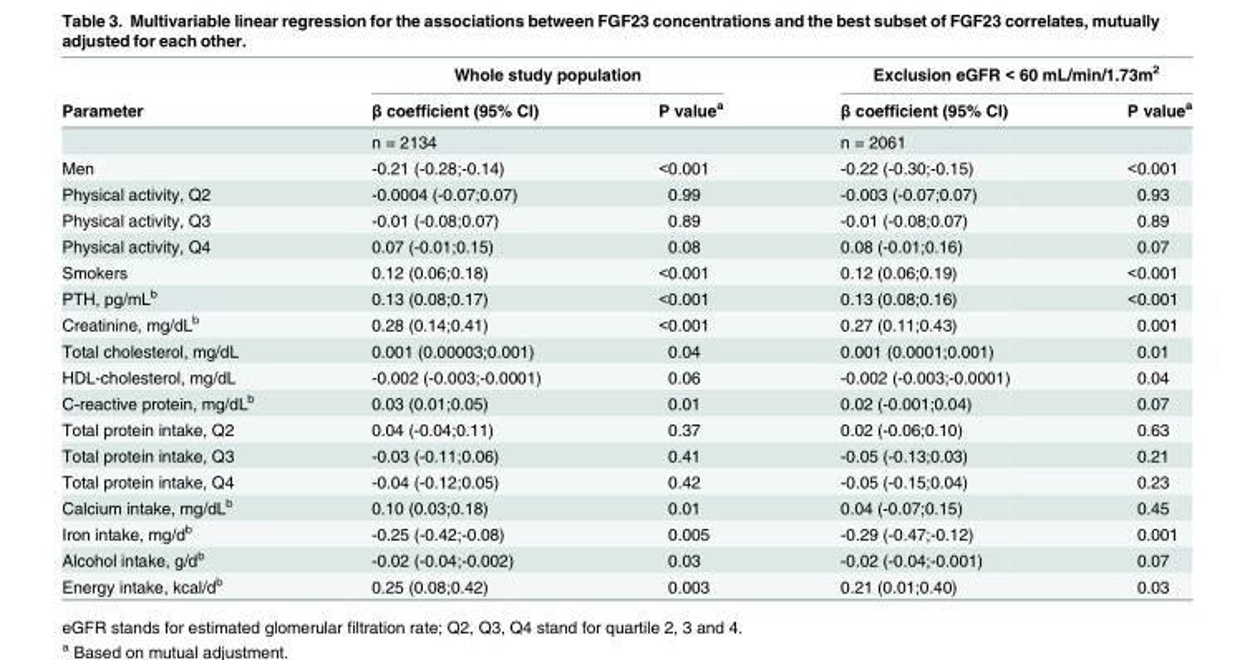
<table><thead><tr><td rowspan="2">Parameter</td><td colspan="2">Whole study population</td><td colspan="2">Exclusion eGFR &lt; 60 mL/min/1.73m<sup>2</sup></td></tr><tr><td>β coefficient (95% CI)</td><td>P value<sup>a</sup></td><td>β coefficient (95% CI)</td><td>P value<sup>a</sup></td></tr></thead><tbody><tr><td></td><td>n = 2134</td><td></td><td>n = 2061</td><td></td></tr><tr><td>Men</td><td>-0.21 (-0.28;-0.14)</td><td>&lt;0.001</td><td>-0.22 (-0.30;-0.15)</td><td>&lt;0.001</td></tr><tr><td>Physical activity, Q2</td><td>-0.0004 (-0.07;0.07)</td><td>0.99</td><td>-0.003 (-0.07;0.07)</td><td>0.93</td></tr><tr><td>Physical activity, Q3</td><td>-0.01 (-0.08;0.07)</td><td>0.89</td><td>-0.01 (-0.08;0.07)</td><td>0.89</td></tr><tr><td>Physical activity, Q4</td><td>0.07 (-0.01;0.15)</td><td>0.08</td><td>0.08 (-0.01;0.16)</td><td>0.07</td></tr><tr><td>Smokers</td><td>0.12 (0.06;0.18)</td><td>&lt;0.001</td><td>0.12 (0.06;0.19)</td><td>&lt;0.001</td></tr><tr><td>PTH, pg/mL<sup>b</sup></td><td>0.13 (0.08;0.17)</td><td>&lt;0.001</td><td>0.13 (0.08;0.16)</td><td>&lt;0.001</td></tr><tr><td>Creatinine, mg/dL<sup>b</sup></td><td>0.28 (0.14;0.41)</td><td>&lt;0.001</td><td>0.27 (0.11;0.43)</td><td>0.001</td></tr><tr><td>Total cholesterol, mg/dL</td><td>0.001 (0.00003;0.001)</td><td>0.04</td><td>0.001 (0.0001;0.001)</td><td>0.01</td></tr><tr><td>HDL-cholesterol, mg/dL</td><td>-0.002 (-0.003;-0.0001)</td><td>0.06</td><td>-0.002 (-0.003;-0.0001)</td><td>0.04</td></tr><tr><td>C-reactive protein, mg/dL<sup>b</sup></td><td>0.03 (0.01;0.05)</td><td>0.01</td><td>0.02 (-0.001;0.04)</td><td>0.07</td></tr><tr><td>Total protein intake, Q2</td><td>0.04 (-0.04;0.11)</td><td>0.37</td><td>0.02 (-0.06;0.10)</td><td>0.63</td></tr><tr><td>Total protein intake, Q3</td><td>-0.03 (-0.11;0.06)</td><td>0.41</td><td>-0.05 (-0.13;0.03)</td><td>0.21</td></tr><tr><td>Total protein intake, Q4</td><td>-0.04 (-0.12;0.05)</td><td>0.42</td><td>-0.05 (-0.15;0.04)</td><td>0.23</td></tr><tr><td>Calcium intake, mg/dL<sup>b</sup></td><td>0.10 (0.03;0.18)</td><td>0.01</td><td>0.04 (-0.07;0.15)</td><td>0.45</td></tr><tr><td>Iron intake, mg/d<sup>b</sup></td><td>-0.25 (-0.42;-0.08)</td><td>0.005</td><td>-0.29 (-0.47;-0.12)</td><td>0.001</td></tr><tr><td>Alcohol intake, g/d<sup>b</sup></td><td>-0.02 (-0.04;-0.002)</td><td>0.03</td><td>-0.02 (-0.04;-0.001)</td><td>0.07</td></tr><tr><td>Energy intake, kcal/d<sup>b</sup></td><td>0.25 (0.08;0.42)</td><td>0.003</td><td>0.21 (0.01;0.40)</td><td>0.03</td></tr></tbody></table>